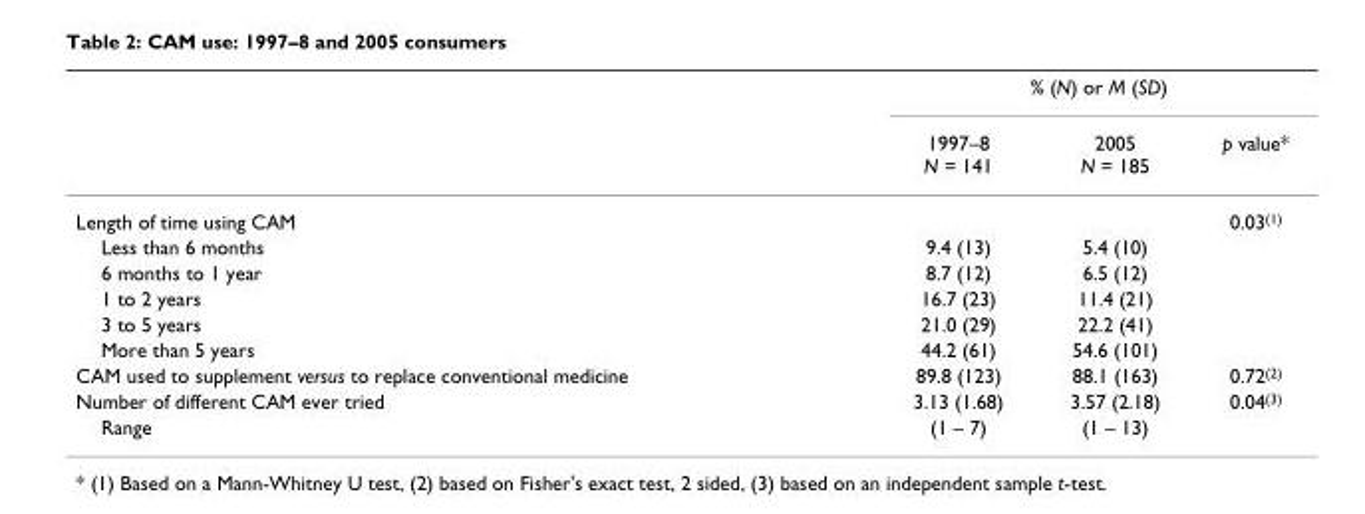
<table><thead><tr><td rowspan="2"></td><td colspan="3">% (N) or M (SD)</td></tr><tr><td>1997–8 N = 141</td><td>2005 N = 185</td><td>p value*</td></tr></thead><tbody><tr><td>Length of time using CAM</td><td></td><td></td><td>0.03<sup>(1)</sup></td></tr><tr><td>Less than 6 months</td><td>9.4 (13)</td><td>5.4 (10)</td><td></td></tr><tr><td>6 months to 1 year</td><td>8.7 (12)</td><td>6.5 (12)</td><td></td></tr><tr><td>1 to 2 years</td><td>16.7 (23)</td><td>11.4 (21)</td><td></td></tr><tr><td>3 to 5 years</td><td>21.0 (29)</td><td>22.2 (41)</td><td></td></tr><tr><td>More than 5 years</td><td>44.2 (61)</td><td>54.6 (101)</td><td></td></tr><tr><td>CAM used to supplement versus to replace conventional medicine</td><td>89.8 (123)</td><td>88.1 (163)</td><td>0.72<sup>(2)</sup></td></tr><tr><td>Number of different CAM ever tried</td><td>3.13 (1.68)</td><td>3.57 (2.18)</td><td>0.04<sup>(3)</sup></td></tr><tr><td>Range</td><td>(1 – 7)</td><td>(1 – 13)</td><td></td></tr></tbody></table>